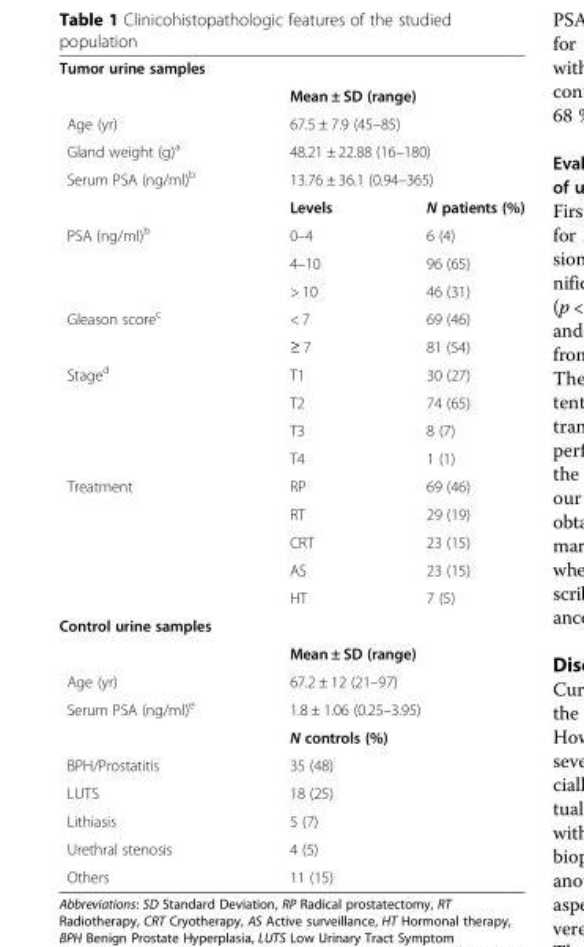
<table><tbody><tr><td colspan="3">Tumor urine samples</td></tr><tr><td></td><td colspan="2">Mean ± SD (range)</td></tr><tr><td>Age (yr)</td><td colspan="2">67.5 ± 7.9 (45–85)</td></tr><tr><td>Gland weight (g)<sup>a</sup></td><td colspan="2">48.21 ± 22.88 (16–180)</td></tr><tr><td rowspan="2">Serum PSA (ng/ml)<sup>b</sup></td><td colspan="2">13.76 ± 36.1 (0.94–365)</td></tr><tr><td>Levels</td><td>N patients (%)</td></tr><tr><td rowspan="3">PSA (ng/ml)<sup>b</sup></td><td>0–4</td><td>6 (4)</td></tr><tr><td>4–10</td><td>96 (65)</td></tr><tr><td>&gt; 10</td><td>46 (31)</td></tr><tr><td rowspan="2">Gleason score<sup>c</sup></td><td>&lt; 7</td><td>69 (46)</td></tr><tr><td>≥ 7</td><td>81 (54)</td></tr><tr><td rowspan="4">Stage<sup>d</sup></td><td>T1</td><td>30 (27)</td></tr><tr><td>T2</td><td>74 (65)</td></tr><tr><td>T3</td><td>8 (7)</td></tr><tr><td>T4</td><td>1 (1)</td></tr><tr><td rowspan="5">Treatment</td><td>RP</td><td>69 (46)</td></tr><tr><td>RT</td><td>29 (19)</td></tr><tr><td>CRT</td><td>23 (15)</td></tr><tr><td>AS</td><td>23 (15)</td></tr><tr><td>HT</td><td>7 (5)</td></tr><tr><td colspan="3">Control urine samples</td></tr><tr><td></td><td colspan="2">Mean ± SD (range)</td></tr><tr><td>Age (yr)</td><td colspan="2">67.2 ± 12 (21–97)</td></tr><tr><td rowspan="2">Serum PSA (ng/ml)<sup>e</sup></td><td colspan="2">1.8 ± 1.06 (0.25–3.95)</td></tr><tr><td colspan="2">N controls (%)</td></tr><tr><td>BPH/Prostatitis</td><td colspan="2">35 (48)</td></tr><tr><td>LUTS</td><td colspan="2">18 (25)</td></tr><tr><td>Lithiasis</td><td colspan="2">5 (7)</td></tr><tr><td>Urethral stenosis</td><td colspan="2">4 (5)</td></tr><tr><td>Others</td><td colspan="2">11 (15)</td></tr></tbody></table>